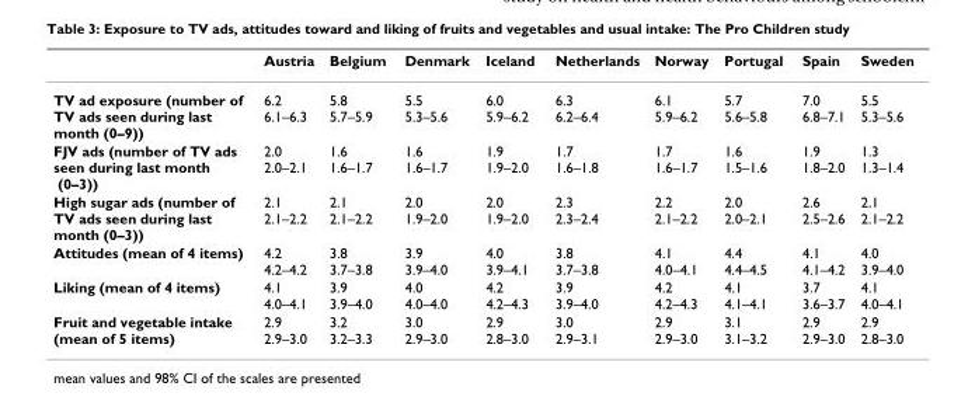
<table><thead><tr><td></td><td>Austria</td><td>Belgium</td><td>Denmark</td><td>Iceland</td><td>Netherlands</td><td>Norway</td><td>Portugal</td><td>Spain</td><td>Sweden</td></tr></thead><tbody><tr><td>TV ad exposure (number of TV ads seen during last month (0–9))</td><td>6.2 6.1–6.3</td><td>5.8 5.7–5.9</td><td>5.5 5.3–5.6</td><td>6.0 5.9–6.2</td><td>6.3 6.2–6.4</td><td>6.1 5.9–6.2</td><td>5.7 5.6–5.8</td><td>7.0 6.8–7.1</td><td>5.5 5.3–5.6</td></tr><tr><td>FJV ads (number of TV ads seen during last month (0–3))</td><td>2.0 2.0–2.1</td><td>1.6 1.6–1.7</td><td>1.6 1.6–1.7</td><td>1.9 1.9–2.0</td><td>1.7 1.6–1.8</td><td>1.7 1.6–1.7</td><td>1.6 1.5–1.6</td><td>1.9 1.8–2.0</td><td>1.3 1.3–1.4</td></tr><tr><td>High sugar ads (number of TV ads seen during last month (0–3))</td><td>2.1 2.1–2.2</td><td>2.1 2.1–2.2</td><td>2.0 1.9–2.0</td><td>2.0 1.9–2.0</td><td>2.3 2.3–2.4</td><td>2.2 2.1–2.2</td><td>2.0 2.0–2.1</td><td>2.6 2.5–2.6</td><td>2.1 2.1–2.2</td></tr><tr><td>Attitudes (mean of 4 items)</td><td>4.2 4.2–4.2</td><td>3.8 3.7–3.8</td><td>3.9 3.9–4.0</td><td>4.0 3.9–4.1</td><td>3.8 3.7–3.8</td><td>4.1 4.0–4.1</td><td>4.4 4.4–4.5</td><td>4.1 4.1–4.2</td><td>4.0 3.9–4.0</td></tr><tr><td>Liking (mean of 4 items)</td><td>4.1 4.0–4.1</td><td>3.9 3.9–4.0</td><td>4.0 4.0–4.0</td><td>4.2 4.2–4.3</td><td>3.9 3.9–4.0</td><td>4.2 4.2–4.3</td><td>4.1 4.1–4.1</td><td>3.7 3.6–3.7</td><td>4.1 4.0–4.1</td></tr><tr><td>Fruit and vegetable intake (mean of 5 items)</td><td>2.9 2.9–3.0</td><td>3.2 3.2–3.3</td><td>3.0 2.9–3.0</td><td>2.9 2.8–3.0</td><td>3.0 2.9–3.1</td><td>2.9 2.9–3.0</td><td>3.1 3.1–3.2</td><td>2.9 2.9–3.0</td><td>2.9 2.8–3.0</td></tr></tbody></table>